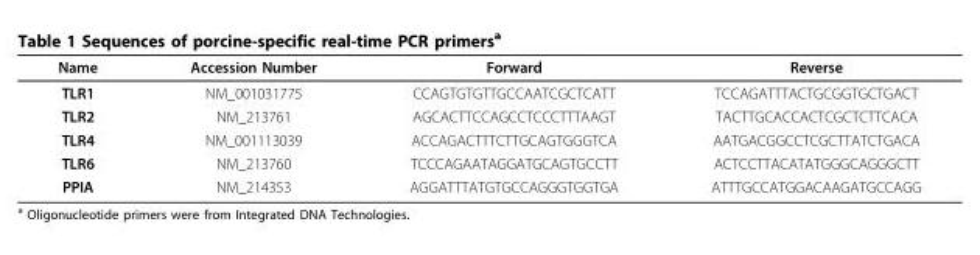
<table><thead><tr><td>Name</td><td>Accession Number</td><td>Forward</td><td>Reverse</td></tr></thead><tbody><tr><td>TLR1</td><td>NM_001031775</td><td>CCAGTGTGTTGCCAATCGCTCATT</td><td>TCCAGATTTACTGCGGTGCTGACT</td></tr><tr><td>TLR2</td><td>NM_213761</td><td>AGCACTTCCAGCCTCCCTTTAAGT</td><td>TACTTGCACCACTCGCTCTTCACA</td></tr><tr><td>TLR4</td><td>NM_001113039</td><td>ACCAGACTTTCTTGCAGTGGGTCA</td><td>AATGACGGCCTCGCTTATCTGACA</td></tr><tr><td>TLR6</td><td>NM_213760</td><td>TCCCAGAATAGGATGCAGTGCCTT</td><td>ACTCCTTACATATGGGCAGGGCTT</td></tr><tr><td>PPIA</td><td>NM_214353</td><td>AGGATTTATGTGCCAGGGTGGTGA</td><td>ATTTGCCATGGACAAGATGCCAGG</td></tr></tbody></table>